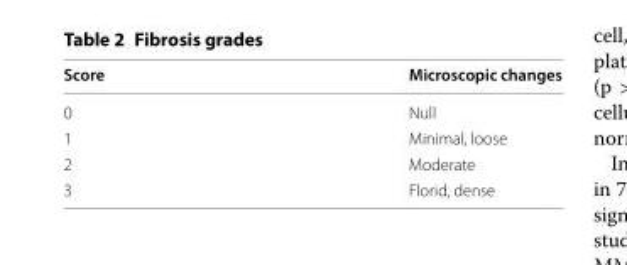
<table><thead><tr><td>Score</td><td>Microscopic changes</td></tr></thead><tbody><tr><td>0</td><td>Null</td></tr><tr><td>1</td><td>Minimal, loose</td></tr><tr><td>2</td><td>Moderate</td></tr><tr><td>3</td><td>Florid, dense</td></tr></tbody></table>